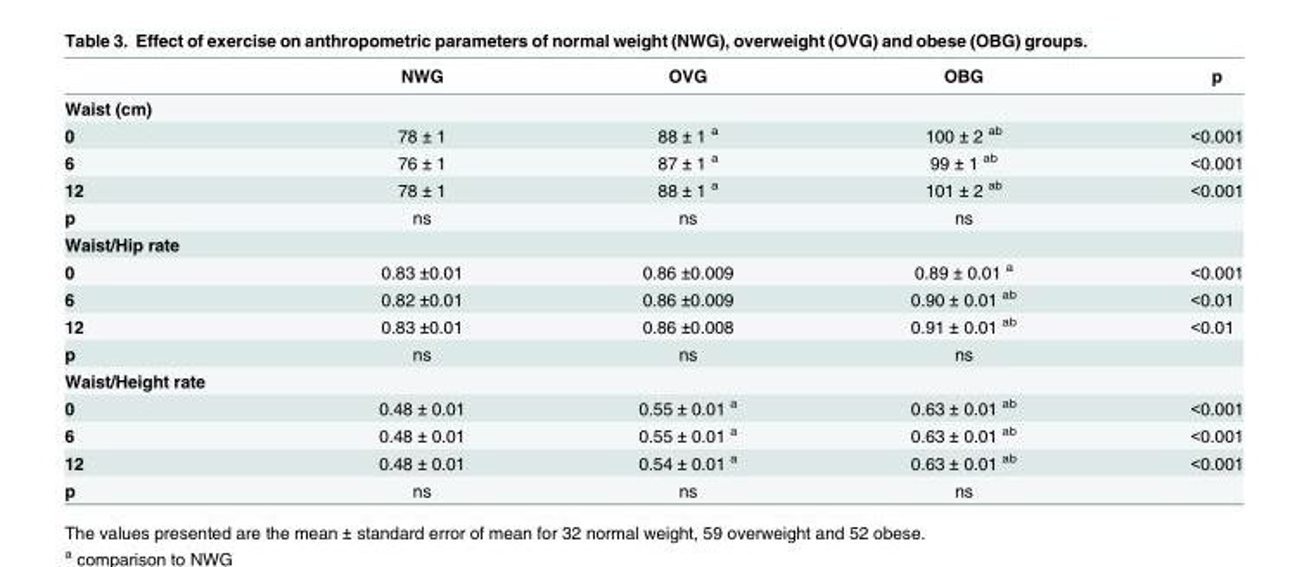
<table><thead><tr><td></td><td>NWG</td><td>OVG</td><td>OBG</td><td>p</td></tr></thead><tbody><tr><td colspan="5">Waist (cm)</td></tr><tr><td>0</td><td>78 ± 1</td><td>88 ± 1 <sup>a</sup></td><td>100 ± 2 <sup>ab</sup></td><td>&lt;0.001</td></tr><tr><td>6</td><td>76 ± 1</td><td>87 ± 1 <sup>a</sup></td><td>99 ± 1 <sup>ab</sup></td><td>&lt;0.001</td></tr><tr><td>12</td><td>78 ± 1</td><td>88 ± 1 <sup>a</sup></td><td>101 ± 2 <sup>ab</sup></td><td>&lt;0.001</td></tr><tr><td>p</td><td>ns</td><td>ns</td><td>ns</td><td></td></tr><tr><td colspan="5">Waist/Hip rate</td></tr><tr><td>0</td><td>0.83 ±0.01</td><td>0.86 ±0.009</td><td>0.89 ± 0.01 <sup>a</sup></td><td>&lt;0.001</td></tr><tr><td>6</td><td>0.82 ±0.01</td><td>0.86 ±0.009</td><td>0.90 ± 0.01 <sup>ab</sup></td><td>&lt;0.01</td></tr><tr><td>12</td><td>0.83 ±0.01</td><td>0.86 ±0.008</td><td>0.91 ± 0.01 <sup>ab</sup></td><td>&lt;0.01</td></tr><tr><td>p</td><td>ns</td><td>ns</td><td>ns</td><td></td></tr><tr><td colspan="5">Waist/Height rate</td></tr><tr><td>0</td><td>0.48 ± 0.01</td><td>0.55 ± 0.01 <sup>a</sup></td><td>0.63 ± 0.01 <sup>ab</sup></td><td>&lt;0.001</td></tr><tr><td>6</td><td>0.48 ± 0.01</td><td>0.55 ± 0.01 <sup>a</sup></td><td>0.63 ± 0.01 <sup>ab</sup></td><td>&lt;0.001</td></tr><tr><td>12</td><td>0.48 ± 0.01</td><td>0.54 ± 0.01 <sup>a</sup></td><td>0.63 ± 0.01 <sup>ab</sup></td><td>&lt;0.001</td></tr><tr><td>p</td><td>ns</td><td>ns</td><td>ns</td><td></td></tr></tbody></table>